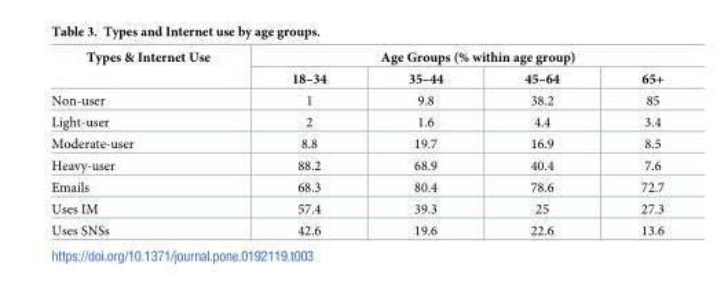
<table><thead><tr><td rowspan="2">Types &amp; Internet Use</td><td colspan="4">Age Groups (% within age group)</td></tr><tr><td>18–34</td><td>35–44</td><td>45–64</td><td>65+</td></tr></thead><tbody><tr><td>Non-user</td><td>1</td><td>9.8</td><td>38.2</td><td>85</td></tr><tr><td>Light-user</td><td>2</td><td>1.6</td><td>4.4</td><td>3.4</td></tr><tr><td>Moderate-user</td><td>8.8</td><td>19.7</td><td>16.9</td><td>8.5</td></tr><tr><td>Heavy-user</td><td>88.2</td><td>68.9</td><td>40.4</td><td>7.6</td></tr><tr><td>Emails</td><td>68.3</td><td>80.4</td><td>78.6</td><td>72.7</td></tr><tr><td>Uses IM</td><td>57.4</td><td>39.3</td><td>25</td><td>27.3</td></tr><tr><td>Uses SNSs</td><td>42.6</td><td>19.6</td><td>22.6</td><td>13.6</td></tr></tbody></table>